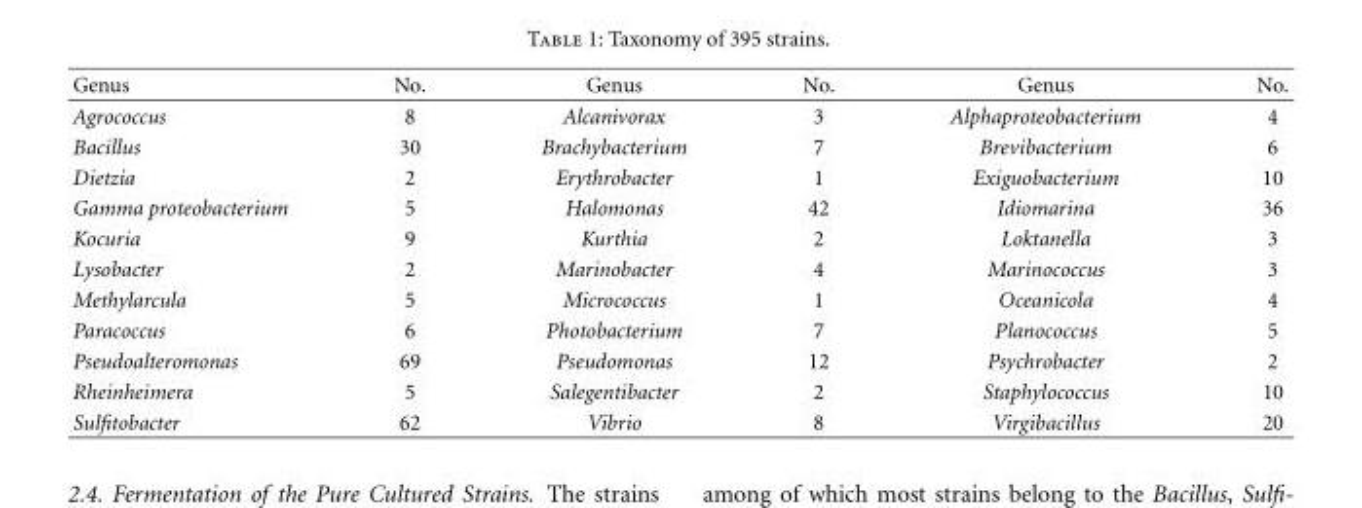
<table><thead><tr><td>Genus</td><td>No.</td><td>Genus</td><td>No.</td><td>Genus</td><td>No.</td></tr></thead><tbody><tr><td>Agrococcus</td><td>8</td><td>Alcanivorax</td><td>3</td><td>Alphaproteobacterium</td><td>4</td></tr><tr><td>Bacillus</td><td>30</td><td>Brachybacterium</td><td>7</td><td>Brevibacterium</td><td>6</td></tr><tr><td>Dietzia</td><td>2</td><td>Erythrobacter</td><td>1</td><td>Exiguobacterium</td><td>10</td></tr><tr><td>Gamma proteobacterium</td><td>5</td><td>Halomonas</td><td>42</td><td>Idiomarina</td><td>36</td></tr><tr><td>Kocuria</td><td>9</td><td>Kurthia</td><td>2</td><td>Loktanella</td><td>3</td></tr><tr><td>Lysobacter</td><td>2</td><td>Marinobacter</td><td>4</td><td>Marinococcus</td><td>3</td></tr><tr><td>Methylarcula</td><td>5</td><td>Micrococcus</td><td>1</td><td>Oceanicola</td><td>4</td></tr><tr><td>Paracoccus</td><td>6</td><td>Photobacterium</td><td>7</td><td>Planococcus</td><td>5</td></tr><tr><td>Pseudoalteromonas</td><td>69</td><td>Pseudomonas</td><td>12</td><td>Psychrobacter</td><td>2</td></tr><tr><td>Rheinheimera</td><td>5</td><td>Salegentibacter</td><td>2</td><td>Staphylococcus</td><td>10</td></tr><tr><td>Sulfitobacter</td><td>62</td><td>Vibrio</td><td>8</td><td>Virgibacillus</td><td>20</td></tr></tbody></table>